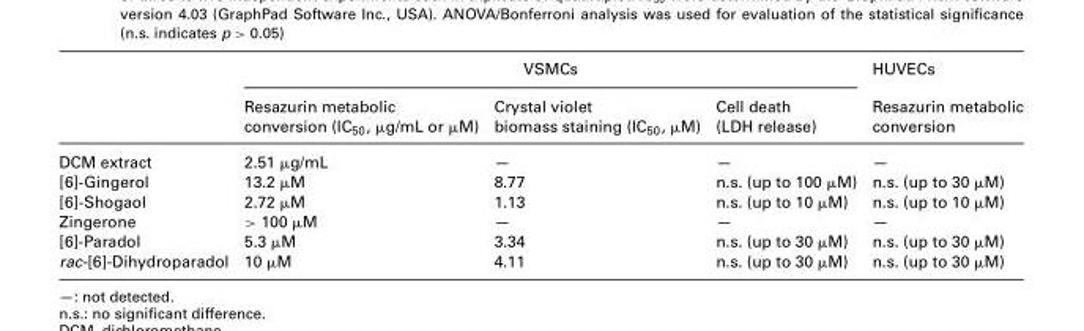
<table><thead><tr><td rowspan="3"></td><td colspan="3">VSMCs</td><td rowspan="3">HUVECs Resazurin metabolic conversion</td></tr><tr><td rowspan="2">Resazurin metabolic conversion (IC<sub>50</sub>, μg/mL or μM)</td><td rowspan="2">Crystal violet biomass staining (IC<sub>50</sub>, μM)</td><td rowspan="2">Cell death (LDH release)</td></tr><tr></tr></thead><tbody><tr><td>DCM extract</td><td>2.51 μg/mL</td><td>—</td><td>—</td><td>—</td></tr><tr><td>[6]-Gingerol</td><td>13.2 μM</td><td>8.77</td><td>n.s. (up to 100 μM)</td><td>n.s. (up to 30 μM)</td></tr><tr><td>[6]-Shogaol</td><td>2.72 μM</td><td>1.13</td><td>n.s. (up to 10 μM)</td><td>n.s. (up to 10 μM)</td></tr><tr><td>Zingerone</td><td>&gt; 100 μM</td><td>—</td><td>—</td><td>—</td></tr><tr><td>[6]-Paradol</td><td>5.3 μM</td><td>3.34</td><td>n.s. (up to 30 μM)</td><td>n.s. (up to 30 μM)</td></tr><tr><td>rac-[6]-Dihydroparadol</td><td>10 μM</td><td>4.11</td><td>n.s. (up to 30 μM)</td><td>n.s. (up to 30 μM)</td></tr></tbody></table>